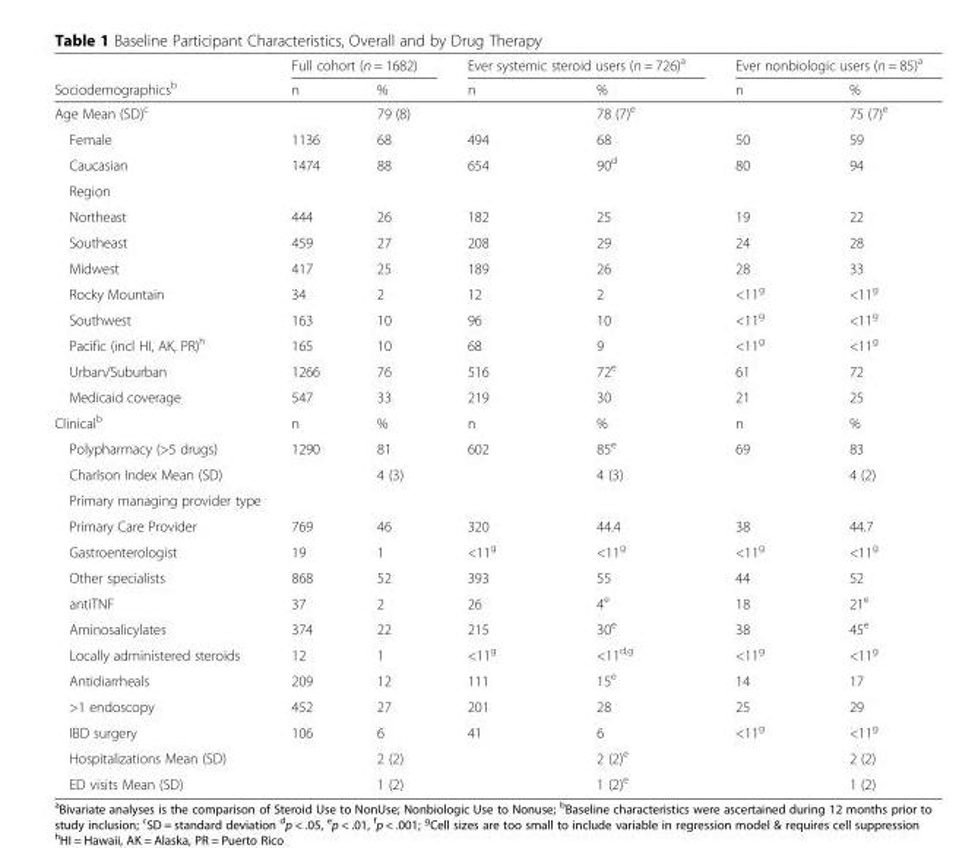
<table><thead><tr><td rowspan="2">Sociodemographics<sup>b</sup></td><td colspan="2">Full cohort (n = 1682)</td><td colspan="2">Ever systemic steroid users (n = 726)<sup>a</sup></td><td colspan="2">Ever nonbiologic users (n = 85)<sup>a</sup></td></tr><tr><td>n</td><td>%</td><td>n</td><td>%</td><td>n</td><td>%</td></tr></thead><tbody><tr><td>Age Mean (SD)<sup>c</sup></td><td></td><td>79 (8)</td><td></td><td>78 (7)<sup>e</sup></td><td></td><td>75 (7)<sup>e</sup></td></tr><tr><td>Female</td><td>1136</td><td>68</td><td>494</td><td>68</td><td>50</td><td>59</td></tr><tr><td>Caucasian</td><td>1474</td><td>88</td><td>654</td><td>90<sup>d</sup></td><td>80</td><td>94</td></tr><tr><td colspan="7">Region</td></tr><tr><td>Northeast</td><td>444</td><td>26</td><td>182</td><td>25</td><td>19</td><td>22</td></tr><tr><td>Southeast</td><td>459</td><td>27</td><td>208</td><td>29</td><td>24</td><td>28</td></tr><tr><td>Midwest</td><td>417</td><td>25</td><td>189</td><td>26</td><td>28</td><td>33</td></tr><tr><td>Rocky Mountain</td><td>34</td><td>2</td><td>12</td><td>2</td><td>&lt;11<sup>g</sup></td><td>&lt;11<sup>g</sup></td></tr><tr><td>Southwest</td><td>163</td><td>10</td><td>96</td><td>10</td><td>&lt;11<sup>g</sup></td><td>&lt;11<sup>g</sup></td></tr><tr><td>Pacific (incl HI, AK, PR)<sup>h</sup></td><td>165</td><td>10</td><td>68</td><td>9</td><td>&lt;11<sup>g</sup></td><td>&lt;11<sup>g</sup></td></tr><tr><td>Urban/Suburban</td><td>1266</td><td>76</td><td>516</td><td>72<sup>e</sup></td><td>61</td><td>72</td></tr><tr><td>Medicaid coverage</td><td>547</td><td>33</td><td>219</td><td>30</td><td>21</td><td>25</td></tr><tr><td>Clinical<sup>b</sup></td><td>n</td><td>%</td><td>n</td><td>%</td><td>n</td><td>%</td></tr><tr><td>Polypharmacy (&gt;5 drugs)</td><td>1290</td><td>81</td><td>602</td><td>85<sup>e</sup></td><td>69</td><td>83</td></tr><tr><td>Charlson Index Mean (SD)</td><td></td><td>4 (3)</td><td></td><td>4 (3)</td><td></td><td>4 (2)</td></tr><tr><td colspan="7">Primary managing provider type</td></tr><tr><td>Primary Care Provider</td><td>769</td><td>46</td><td>320</td><td>44.4</td><td>38</td><td>44.7</td></tr><tr><td>Gastroenterologist</td><td>19</td><td>1</td><td>&lt;11<sup>g</sup></td><td>&lt;11<sup>g</sup></td><td>&lt;11<sup>g</sup></td><td>&lt;11<sup>g</sup></td></tr><tr><td>Other specialists</td><td>868</td><td>52</td><td>393</td><td>55</td><td>44</td><td>52</td></tr><tr><td>antiTNF</td><td>37</td><td>2</td><td>26</td><td>4<sup>e</sup></td><td>18</td><td>21<sup>e</sup></td></tr><tr><td>Aminosalicylates</td><td>374</td><td>22</td><td>215</td><td>30<sup>e</sup></td><td>38</td><td>45<sup>e</sup></td></tr><tr><td>Locally administered steroids</td><td>12</td><td>1</td><td>&lt;11<sup>g</sup></td><td>&lt;11<sup>d,g</sup></td><td>&lt;11<sup>g</sup></td><td>&lt;11<sup>g</sup></td></tr><tr><td>Antidiarrheals</td><td>209</td><td>12</td><td>111</td><td>15<sup>e</sup></td><td>14</td><td>17</td></tr><tr><td>&gt;1 endoscopy</td><td>452</td><td>27</td><td>201</td><td>28</td><td>25</td><td>29</td></tr><tr><td>IBD surgery</td><td>106</td><td>6</td><td>41</td><td>6</td><td>&lt;11<sup>g</sup></td><td>&lt;11<sup>g</sup></td></tr><tr><td>Hospitalizations Mean (SD)</td><td></td><td>2 (2)</td><td></td><td>2 (2)<sup>e</sup></td><td></td><td>2 (2)</td></tr><tr><td>ED visits Mean (SD)</td><td></td><td>1 (2)</td><td></td><td>1 (2)<sup>e</sup></td><td></td><td>1 (2)</td></tr></tbody></table>